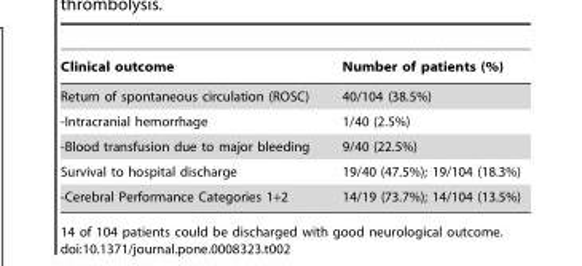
<table><thead><tr><td>Clinical outcome</td><td>Number of patients (%)</td></tr></thead><tbody><tr><td>Return of spontaneous circulation (ROSC)</td><td>40/104 (38.5%)</td></tr><tr><td>-Intracranial hemorrhage</td><td>1/40 (2.5%)</td></tr><tr><td>-Blood transfusion due to major bleeding</td><td>9/40 (22.5%)</td></tr><tr><td>Survival to hospital discharge</td><td>19/40 (47.5%); 19/104 (18.3%)</td></tr><tr><td>-Cerebral Performance Categories 1+2</td><td>14/19 (73.7%); 14/104 (13.5%)</td></tr></tbody></table>